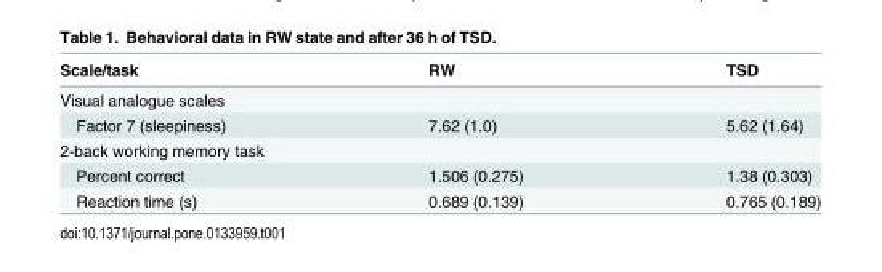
<table><thead><tr><td>Scale/task</td><td>RW</td><td>TSD</td></tr></thead><tbody><tr><td colspan="3">Visual analogue scales</td></tr><tr><td>Factor 7 (sleepiness)</td><td>7.62 (1.0)</td><td>5.62 (1.64)</td></tr><tr><td colspan="3">2-back working memory task</td></tr><tr><td>Percent correct</td><td>1.506 (0.275)</td><td>1.38 (0.303)</td></tr><tr><td>Reaction time (s)</td><td>0.689 (0.139)</td><td>0.765 (0.189)</td></tr></tbody></table>